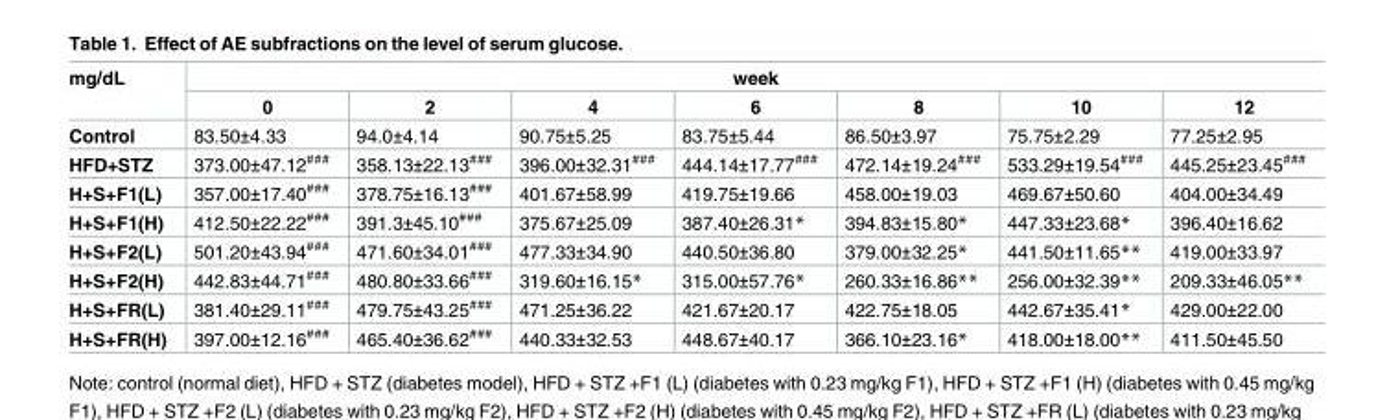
<table><thead><tr><td rowspan="2">mg/dL</td><td colspan="7">week</td></tr><tr><td>0</td><td>2</td><td>4</td><td>6</td><td>8</td><td>10</td><td>12</td></tr></thead><tbody><tr><td>Control</td><td>83.50±4.33</td><td>94.0±4.14</td><td>90.75±5.25</td><td>83.75±5.44</td><td>86.50±3.97</td><td>75.75±2.29</td><td>77.25±2.95</td></tr><tr><td>HFD+STZ</td><td>373.00±47.12<sup>###</sup></td><td>358.13±22.13<sup>###</sup></td><td>396.00±32.31<sup>###</sup></td><td>444.14±17.77<sup>###</sup></td><td>472.14±19.24<sup>###</sup></td><td>533.29±19.54<sup>###</sup></td><td>445.25±23.45<sup>###</sup></td></tr><tr><td>H+S+F1(L)</td><td>357.00±17.40<sup>###</sup></td><td>378.75±16.13<sup>###</sup></td><td>401.67±58.99</td><td>419.75±19.66</td><td>458.00±19.03</td><td>469.67±50.60</td><td>404.00±34.49</td></tr><tr><td>H+S+F1(H)</td><td>412.50±22.22<sup>###</sup></td><td>391.3±45.10<sup>###</sup></td><td>375.67±25.09</td><td>387.40±26.31*</td><td>394.83±15.80*</td><td>447.33±23.68*</td><td>396.40±16.62</td></tr><tr><td>H+S+F2(L)</td><td>501.20±43.94<sup>###</sup></td><td>471.60±34.01<sup>###</sup></td><td>477.33±34.90</td><td>440.50±36.80</td><td>379.00±32.25*</td><td>441.50±11.65**</td><td>419.00±33.97</td></tr><tr><td>H+S+F2(H)</td><td>442.83±44.71<sup>###</sup></td><td>480.80±33.66<sup>###</sup></td><td>319.60±16.15*</td><td>315.00±57.76*</td><td>260.33±16.86**</td><td>256.00±32.39**</td><td>209.33±46.05**</td></tr><tr><td>H+S+FR(L)</td><td>381.40±29.11<sup>###</sup></td><td>479.75±43.25<sup>###</sup></td><td>471.25±36.22</td><td>421.67±20.17</td><td>422.75±18.05</td><td>442.67±35.41*</td><td>429.00±22.00</td></tr><tr><td>H+S+FR(H)</td><td>397.00±12.16<sup>###</sup></td><td>465.40±36.62<sup>###</sup></td><td>440.33±32.53</td><td>448.67±40.17</td><td>366.10±23.16*</td><td>418.00±18.00**</td><td>411.50±45.50</td></tr></tbody></table>